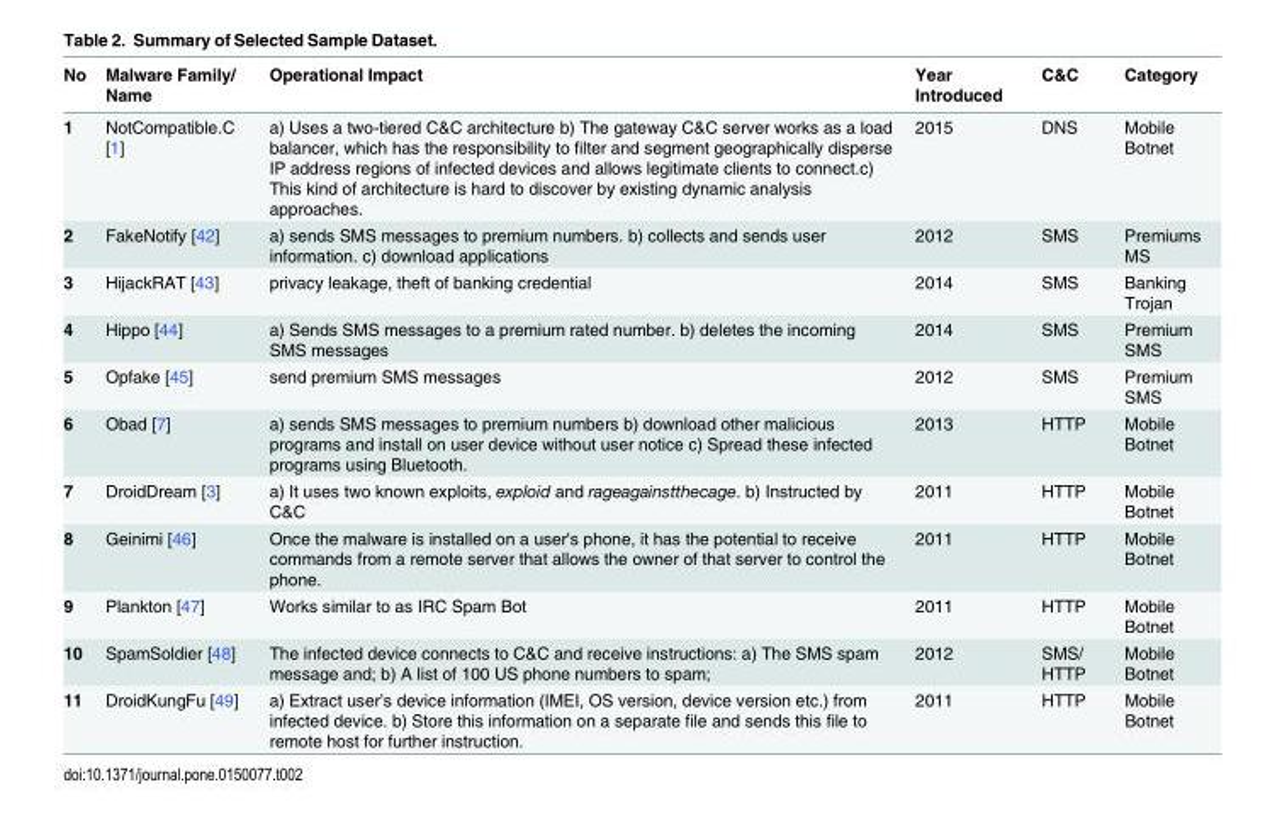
<table><thead><tr><td>No</td><td>Malware Family/ Name</td><td>Operational Impact</td><td>Year Introduced</td><td>C&amp;C</td><td>Category</td></tr></thead><tbody><tr><td>1</td><td>NotCompatible.C [1]</td><td>a) Uses a two-tiered C&amp;C architecture b) The gateway C&amp;C server works as a load balancer, which has the responsibility to filter and segment geographically disperse IP address regions of infected devices and allows legitimate clients to connect.c) This kind of architecture is hard to discover by existing dynamic analysis approaches.</td><td>2015</td><td>DNS</td><td>Mobile Botnet</td></tr><tr><td>2</td><td>FakeNotify [42]</td><td>a) sends SMS messages to premium numbers. b) collects and sends user information. c) download applications</td><td>2012</td><td>SMS</td><td>Premiums MS</td></tr><tr><td>3</td><td>HijackRAT [43]</td><td>privacy leakage, theft of banking credential</td><td>2014</td><td>SMS</td><td>Banking Trojan</td></tr><tr><td>4</td><td>Hippo [44]</td><td>a) Sends SMS messages to a premium rated number. b) deletes the incoming SMS messages</td><td>2014</td><td>SMS</td><td>Premium SMS</td></tr><tr><td>5</td><td>Opfake [45]</td><td>send premium SMS messages</td><td>2012</td><td>SMS</td><td>Premium SMS</td></tr><tr><td>6</td><td>Obad [7]</td><td>a) sends SMS messages to premium numbers b) download other malicious programs and install on user device without user notice c) Spread these infected programs using Bluetooth.</td><td>2013</td><td>HTTP</td><td>Mobile Botnet</td></tr><tr><td>7</td><td>DroidDream [3]</td><td>a) It uses two known exploits, exploid and rageagainstthecage. b) Instructed by C&amp;C</td><td>2011</td><td>HTTP</td><td>Mobile Botnet</td></tr><tr><td>8</td><td>Geinimi [46]</td><td>Once the malware is installed on a user&#x27;s phone, it has the potential to receive commands from a remote server that allows the owner of that server to control the phone.</td><td>2011</td><td>HTTP</td><td>Mobile Botnet</td></tr><tr><td>9</td><td>Plankton [47]</td><td>Works similar to as IRC Spam Bot</td><td>2011</td><td>HTTP</td><td>Mobile Botnet</td></tr><tr><td>10</td><td>SpamSoldier [48]</td><td>The infected device connects to C&amp;C and receive instructions: a) The SMS spam message and; b) A list of 100 US phone numbers to spam;</td><td>2012</td><td>SMS/ HTTP</td><td>Mobile Botnet</td></tr><tr><td>11</td><td>DroidKungFu [49]</td><td>a) Extract user’s device information (IMEI, OS version, device version etc.) from infected device. b) Store this information on a separate file and sends this file to remote host for further instruction.</td><td>2011</td><td>HTTP</td><td>Mobile Botnet</td></tr></tbody></table>